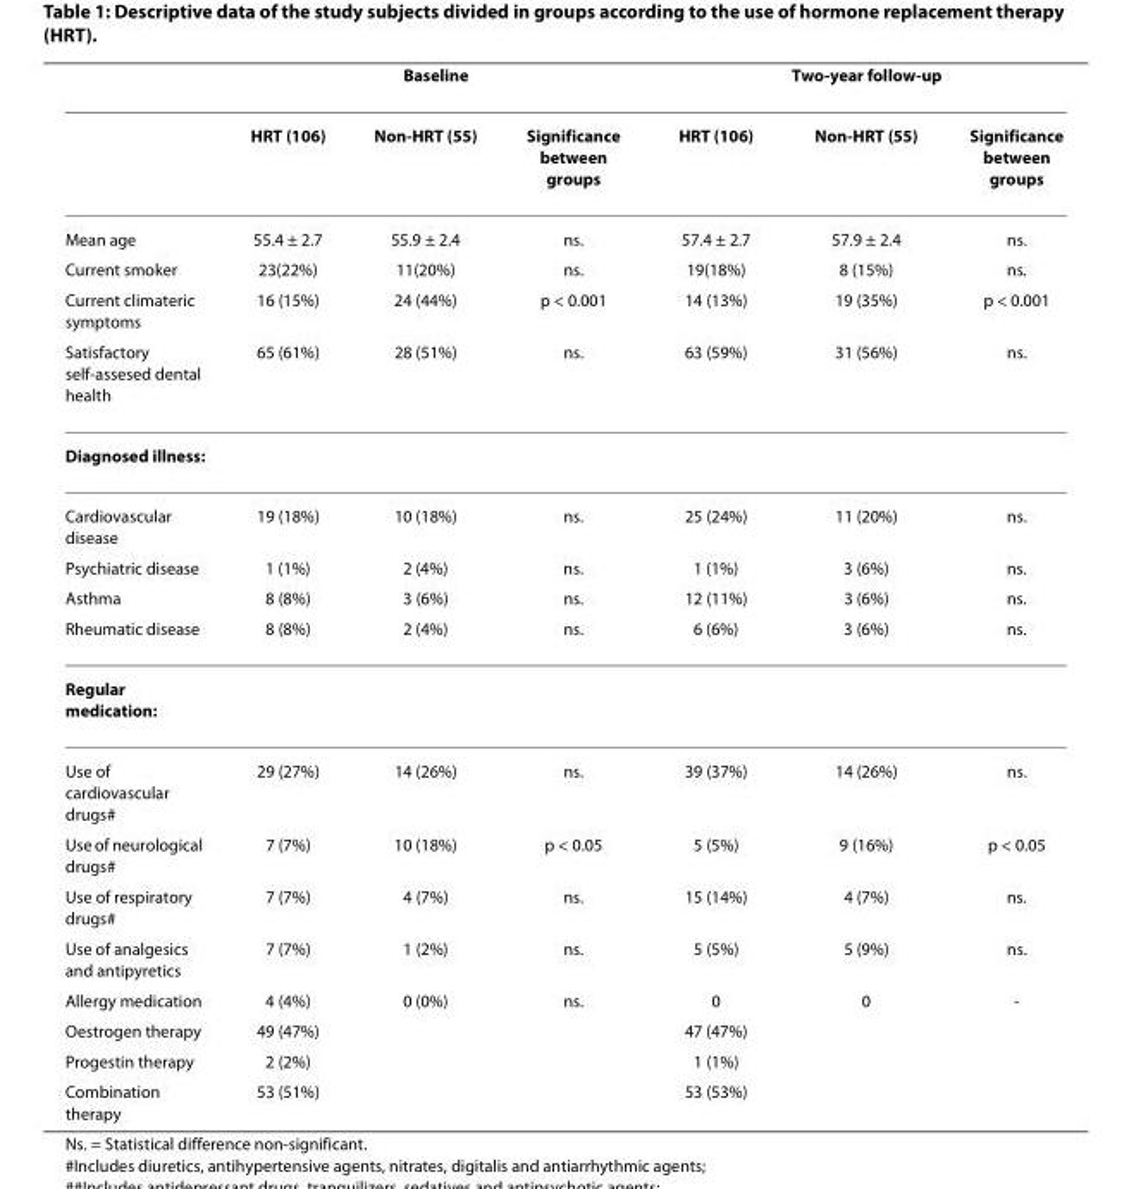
<table><thead><tr><td rowspan="2"></td><td colspan="3">Baseline</td><td colspan="3">Two-year follow-up</td></tr><tr><td>HRT (106)</td><td>Non-HRT (55)</td><td>Significance between groups</td><td>HRT (106)</td><td>Non-HRT (55)</td><td>Significance between groups</td></tr></thead><tbody><tr><td>Mean age</td><td>55.4 ± 2.7</td><td>55.9 ± 2.4</td><td>ns.</td><td>57.4 ± 2.7</td><td>57.9 ± 2.4</td><td>ns.</td></tr><tr><td>Current smoker</td><td>23(22%)</td><td>11(20%)</td><td>ns.</td><td>19(18%)</td><td>8 (15%)</td><td>ns.</td></tr><tr><td>Current climateric symptoms</td><td>16 (15%)</td><td>24 (44%)</td><td>p &lt; 0.001</td><td>14 (13%)</td><td>19 (35%)</td><td>p &lt; 0.001</td></tr><tr><td>Satisfactory self-assesed dental health</td><td>65 (61%)</td><td>28 (51%)</td><td>ns.</td><td>63 (59%)</td><td>31 (56%)</td><td>ns.</td></tr><tr><td colspan="7">Diagnosed illness:</td></tr><tr><td>Cardiovascular disease</td><td>19 (18%)</td><td>10 (18%)</td><td>ns.</td><td>25 (24%)</td><td>11 (20%)</td><td>ns.</td></tr><tr><td>Psychiatric disease</td><td>1 (1%)</td><td>2 (4%)</td><td>ns.</td><td>1 (1%)</td><td>3 (6%)</td><td>ns.</td></tr><tr><td>Asthma</td><td>8 (8%)</td><td>3 (6%)</td><td>ns.</td><td>12 (11%)</td><td>3 (6%)</td><td>ns.</td></tr><tr><td>Rheumatic disease</td><td>8 (8%)</td><td>2 (4%)</td><td>ns.</td><td>6 (6%)</td><td>3 (6%)</td><td>ns.</td></tr><tr><td colspan="7">Regular medication:</td></tr><tr><td>Use of cardiovascular drugs#</td><td>29 (27%)</td><td>14 (26%)</td><td>ns.</td><td>39 (37%)</td><td>14 (26%)</td><td>ns.</td></tr><tr><td>Use of neurological drugs#</td><td>7 (7%)</td><td>10 (18%)</td><td>p &lt; 0.05</td><td>5 (5%)</td><td>9 (16%)</td><td>p &lt; 0.05</td></tr><tr><td>Use of respiratory drugs#</td><td>7 (7%)</td><td>4 (7%)</td><td>ns.</td><td>15 (14%)</td><td>4 (7%)</td><td>ns.</td></tr><tr><td>Use of analgesics and antipyretics</td><td>7 (7%)</td><td>1 (2%)</td><td>ns.</td><td>5 (5%)</td><td>5 (9%)</td><td>ns.</td></tr><tr><td>Allergy medication</td><td>4 (4%)</td><td>0 (0%)</td><td>ns.</td><td>0</td><td>0</td><td>-</td></tr><tr><td>Oestrogen therapy</td><td>49 (47%)</td><td></td><td></td><td>47 (47%)</td><td></td><td></td></tr><tr><td>Progestin therapy</td><td>2 (2%)</td><td></td><td></td><td>1 (1%)</td><td></td><td></td></tr><tr><td>Combination therapy</td><td>53 (51%)</td><td></td><td></td><td>53 (53%)</td><td></td><td></td></tr></tbody></table>